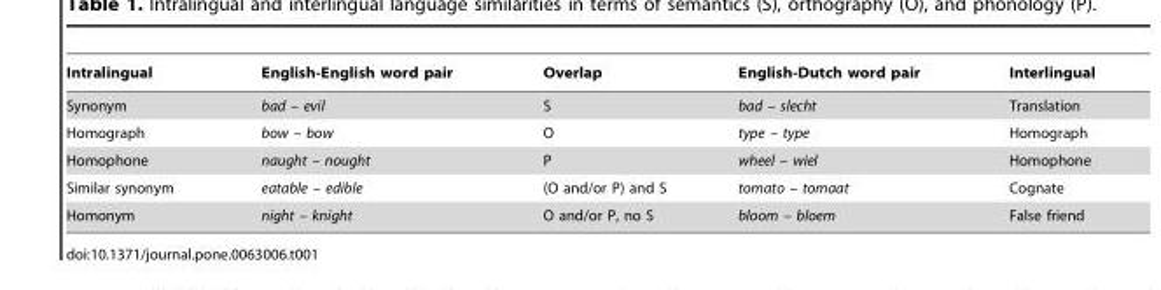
<table><thead><tr><td>Intralingual</td><td>English-English word pair</td><td>Overlap</td><td>English-Dutch word pair</td><td>Interlingual</td></tr></thead><tbody><tr><td>Synonym</td><td>bad – evil</td><td>S</td><td>bad – slecht</td><td>Translation</td></tr><tr><td>Homograph</td><td>bow – bow</td><td>O</td><td>type – type</td><td>Homograph</td></tr><tr><td>Homophone</td><td>naught – nought</td><td>P</td><td>wheel – wiel</td><td>Homophone</td></tr><tr><td>Similar synonym</td><td>eatable – edible</td><td>(O and/or P) and S</td><td>tomato – tomaat</td><td>Cognate</td></tr><tr><td>Homonym</td><td>night – knight</td><td>O and/or P, no S</td><td>bloom – bloem</td><td>False friend</td></tr></tbody></table>